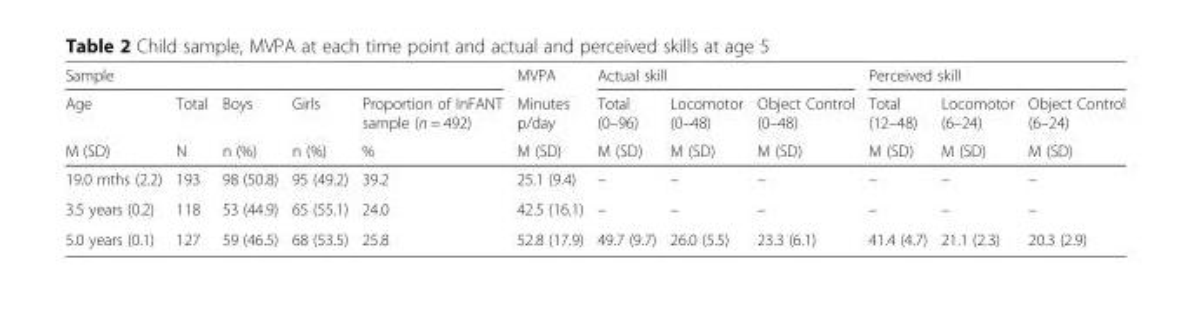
<table><thead><tr><td colspan="5">Sample</td><td rowspan="3">MVPA Minutes p/day M (SD)</td><td colspan="3">Actual skill</td><td colspan="3">Perceived skill</td></tr><tr><td rowspan="2">Age M (SD)</td><td rowspan="2">Total N</td><td rowspan="2">Boys n (%)</td><td rowspan="2">Girls n (%)</td><td rowspan="2">Proportion of InFANT sample (n = 492) %</td><td rowspan="2">Total (0–96) M (SD)</td><td rowspan="2">Locomotor (0–48) M (SD)</td><td rowspan="2">Object Control (0–48) M (SD)</td><td rowspan="2">Total (12–48) M (SD)</td><td rowspan="2">Locomotor (6–24) M (SD)</td><td rowspan="2">Object Control (6–24) M (SD)</td></tr><tr></tr></thead><tbody><tr><td>19.0 mths (2.2)</td><td>193</td><td>98 (50.8)</td><td>95 (49.2)</td><td>39.2</td><td>25.1 (9.4)</td><td>–</td><td>–</td><td>–</td><td>–</td><td>–</td><td>–</td></tr><tr><td>3.5 years (0.2)</td><td>118</td><td>53 (44.9)</td><td>65 (55.1)</td><td>24.0</td><td>42.5 (16.1)</td><td>–</td><td>–</td><td>–</td><td>–</td><td>–</td><td>–</td></tr><tr><td>5.0 years (0.1)</td><td>127</td><td>59 (46.5)</td><td>68 (53.5)</td><td>25.8</td><td>52.8 (17.9)</td><td>49.7 (9.7)</td><td>26.0 (5.5)</td><td>23.3 (6.1)</td><td>41.4 (4.7)</td><td>21.1 (2.3)</td><td>20.3 (2.9)</td></tr></tbody></table>